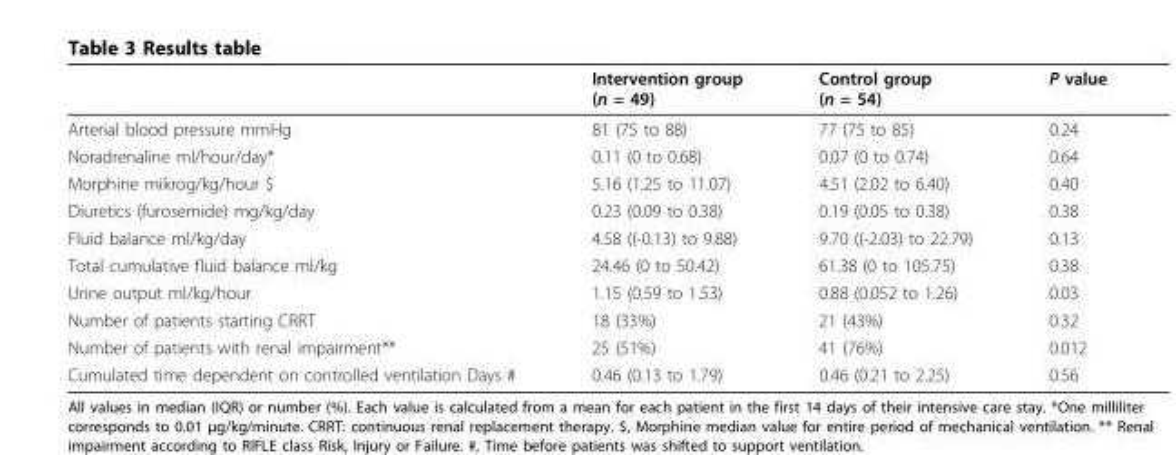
<table><thead><tr><td></td><td>Intervention group (n = 49)</td><td>Control group (n = 54)</td><td>P value</td></tr></thead><tbody><tr><td>Arterial blood pressure mmHg</td><td>81 (75 to 88)</td><td>77 (75 to 85)</td><td>0.24</td></tr><tr><td>Noradrenaline ml/hour/day*</td><td>0.11 (0 to 0.68)</td><td>0.07 (0 to 0.74)</td><td>0.64</td></tr><tr><td>Morphine mikrog/kg/hour $</td><td>5.16 (1.25 to 11.07)</td><td>4.51 (2.02 to 6.40)</td><td>0.40</td></tr><tr><td>Diuretics (furosemide) mg/kg/day</td><td>0.23 (0.09 to 0.38)</td><td>0.19 (0.05 to 0.38)</td><td>0.38</td></tr><tr><td>Fluid balance ml/kg/day</td><td>4.58 ((-0.13) to 9.88)</td><td>9.70 ((-2.03) to 22.79)</td><td>0.13</td></tr><tr><td>Total cumulative fluid balance ml/kg</td><td>24.46 (0 to 50.42)</td><td>61.38 (0 to 105.75)</td><td>0.38</td></tr><tr><td>Urine output ml/kg/hour</td><td>1.15 (0.59 to 1.53)</td><td>0.88 (0.052 to 1.26)</td><td>0.03</td></tr><tr><td>Number of patients starting CRRT</td><td>18 (33%)</td><td>21 (43%)</td><td>0.32</td></tr><tr><td>Number of patients with renal impairment**</td><td>25 (51%)</td><td>41 (76%)</td><td>0.012</td></tr><tr><td>Cumulated time dependent on controlled ventilation Days #</td><td>0.46 (0.13 to 1.79)</td><td>0.46 (0.21 to 2.25)</td><td>0.56</td></tr></tbody></table>